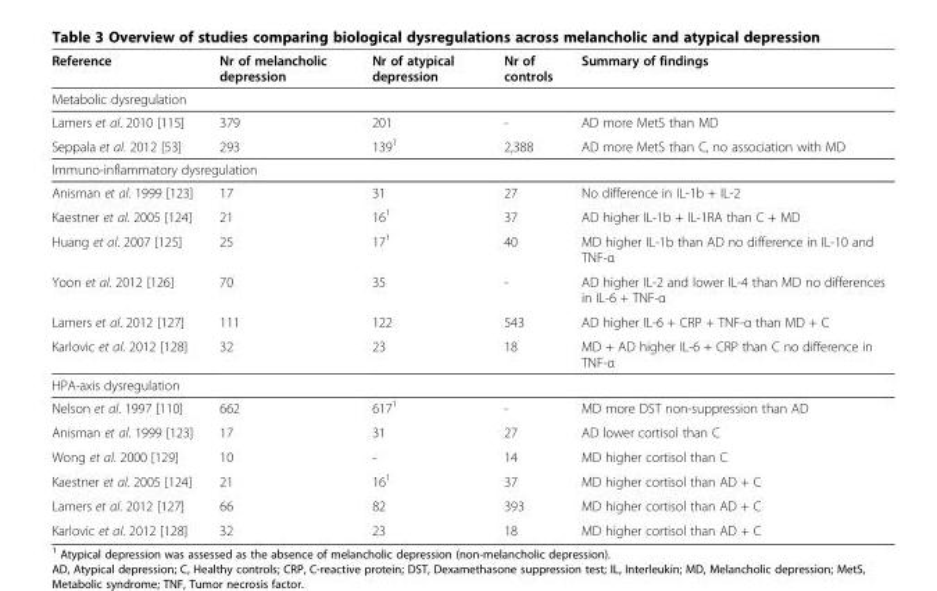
<table><thead><tr><td>Reference</td><td>Nr of melancholic depression</td><td>Nr of atypical depression</td><td>Nr of controls</td><td>Summary of findings</td></tr></thead><tbody><tr><td colspan="5">Metabolic dysregulation</td></tr><tr><td>Lamers et al. 2010 [115]</td><td>379</td><td>201</td><td>-</td><td>AD more MetS than MD</td></tr><tr><td>Seppala et al. 2012 [53]</td><td>293</td><td>139<sup>1</sup></td><td>2,388</td><td>AD more MetS than C, no association with MD</td></tr><tr><td colspan="5">Immuno-inflammatory dysregulation</td></tr><tr><td>Anisman et al. 1999 [123]</td><td>17</td><td>31</td><td>27</td><td>No difference in IL-1b + IL-2</td></tr><tr><td>Kaestner et al. 2005 [124]</td><td>21</td><td>16<sup>1</sup></td><td>37</td><td>AD higher IL-1b + IL-1RA than C + MD</td></tr><tr><td>Huang et al. 2007 [125]</td><td>25</td><td>17<sup>1</sup></td><td>40</td><td>MD higher IL-1b than AD no difference in IL-10 and TNF-α</td></tr><tr><td>Yoon et al. 2012 [126]</td><td>70</td><td>35</td><td>-</td><td>AD higher IL-2 and lower IL-4 than MD no differences in IL-6 + TNF-α</td></tr><tr><td>Lamers et al. 2012 [127]</td><td>111</td><td>122</td><td>543</td><td>AD higher IL-6 + CRP + TNF-α than MD + C</td></tr><tr><td>Karlovic et al. 2012 [128]</td><td>32</td><td>23</td><td>18</td><td>MD + AD higher IL-6 + CRP than C no difference in TNF-α</td></tr><tr><td colspan="5">HPA-axis dysregulation</td></tr><tr><td>Nelson et al. 1997 [110]</td><td>662</td><td>617<sup>1</sup></td><td>-</td><td>MD more DST non-suppression than AD</td></tr><tr><td>Anisman et al. 1999 [123]</td><td>17</td><td>31</td><td>27</td><td>AD lower cortisol than C</td></tr><tr><td>Wong et al. 2000 [129]</td><td>10</td><td>-</td><td>14</td><td>MD higher cortisol than C</td></tr><tr><td>Kaestner et al. 2005 [124]</td><td>21</td><td>16<sup>1</sup></td><td>37</td><td>MD higher cortisol than AD + C</td></tr><tr><td>Lamers et al. 2012 [127]</td><td>66</td><td>82</td><td>393</td><td>MD higher cortisol than AD + C</td></tr><tr><td>Karlovic et al. 2012 [128]</td><td>32</td><td>23</td><td>18</td><td>MD higher cortisol than AD + C</td></tr></tbody></table>